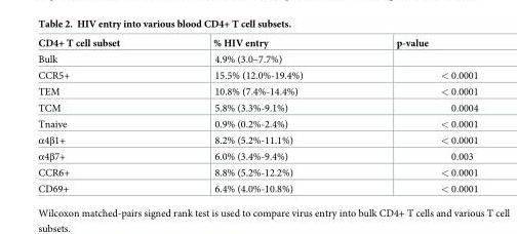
<table><thead><tr><td>CD4+ T cell subset</td><td>% HIV entry</td><td>p-value</td></tr></thead><tbody><tr><td>Bulk</td><td>4.9% (3.0–7.7%)</td><td></td></tr><tr><td>CCR5+</td><td>15.5% (12.0%-19.4%)</td><td>&lt; 0.0001</td></tr><tr><td>TEM</td><td>10.8% (7.4%-14.4%)</td><td>&lt; 0.0001</td></tr><tr><td>TCM</td><td>5.8% (3.3%-9.1%)</td><td>0.0004</td></tr><tr><td>Tnaive</td><td>0.9% (0.2%-2.4%)</td><td>&lt; 0.0001</td></tr><tr><td>α4β1+</td><td>8.2% (5.2%-11.1%)</td><td>&lt; 0.0001</td></tr><tr><td>α4β7+</td><td>6.0% (3.4%-9.4%)</td><td>0.003</td></tr><tr><td>CCR6+</td><td>8.8% (5.2%-12.2%)</td><td>&lt; 0.0001</td></tr><tr><td>CD69+</td><td>6.4% (4.0%-10.8%)</td><td>&lt; 0.0001</td></tr></tbody></table>